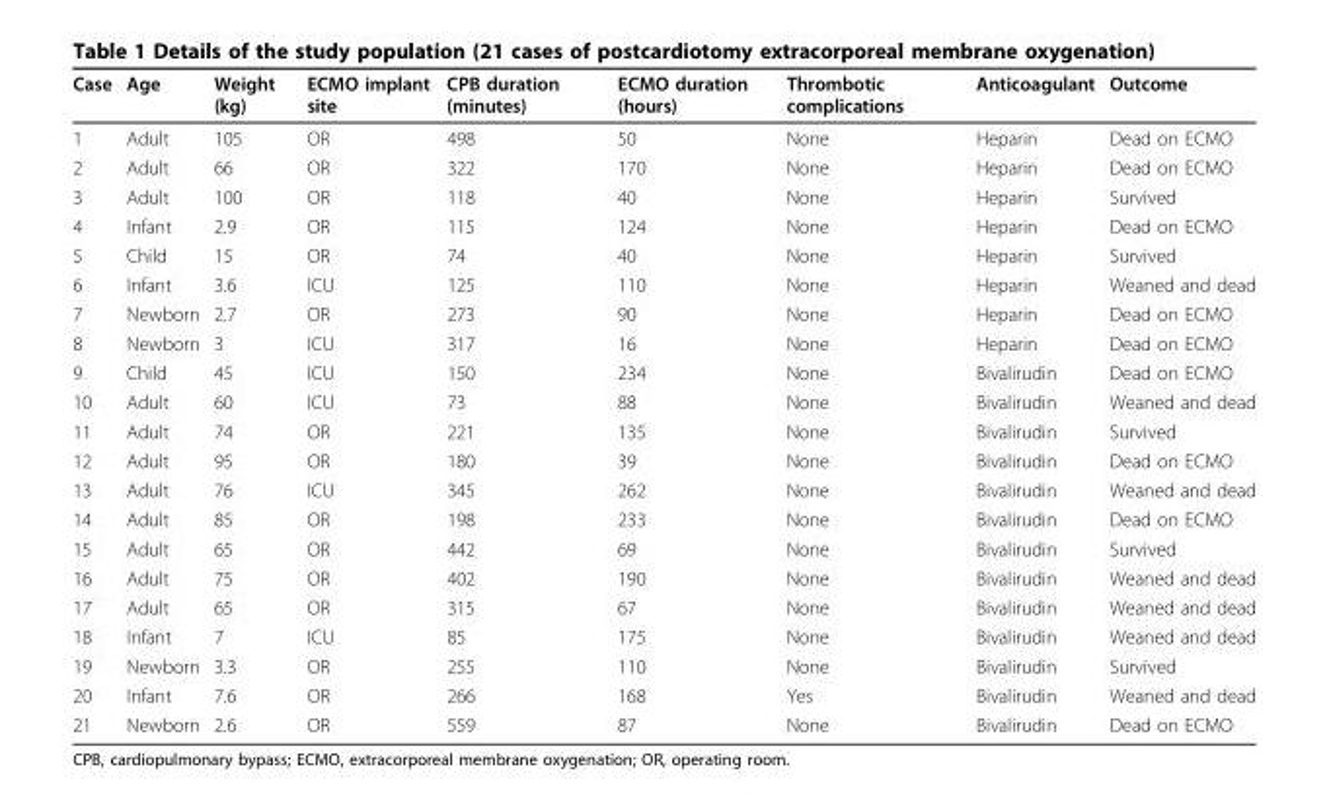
<table><thead><tr><td>Case</td><td>Age</td><td>Weight (kg)</td><td>ECMO implant site</td><td>CPB duration (minutes)</td><td>ECMO duration (hours)</td><td>Thrombotic complications</td><td>Anticoagulant</td><td>Outcome</td></tr></thead><tbody><tr><td>1</td><td>Adult</td><td>105</td><td>OR</td><td>498</td><td>50</td><td>None</td><td>Heparin</td><td>Dead on ECMO</td></tr><tr><td>2</td><td>Adult</td><td>66</td><td>OR</td><td>322</td><td>170</td><td>None</td><td>Heparin</td><td>Dead on ECMO</td></tr><tr><td>3</td><td>Adult</td><td>100</td><td>OR</td><td>118</td><td>40</td><td>None</td><td>Heparin</td><td>Survived</td></tr><tr><td>4</td><td>Infant</td><td>2.9</td><td>OR</td><td>115</td><td>124</td><td>None</td><td>Heparin</td><td>Dead on ECMO</td></tr><tr><td>5</td><td>Child</td><td>15</td><td>OR</td><td>74</td><td>40</td><td>None</td><td>Heparin</td><td>Survived</td></tr><tr><td>6</td><td>Infant</td><td>3.6</td><td>ICU</td><td>125</td><td>110</td><td>None</td><td>Heparin</td><td>Weaned and dead</td></tr><tr><td>7</td><td>Newborn</td><td>2.7</td><td>OR</td><td>273</td><td>90</td><td>None</td><td>Heparin</td><td>Dead on ECMO</td></tr><tr><td>8</td><td>Newborn</td><td>3</td><td>ICU</td><td>317</td><td>16</td><td>None</td><td>Heparin</td><td>Dead on ECMO</td></tr><tr><td>9</td><td>Child</td><td>45</td><td>ICU</td><td>150</td><td>234</td><td>None</td><td>Bivalirudin</td><td>Dead on ECMO</td></tr><tr><td>10</td><td>Adult</td><td>60</td><td>ICU</td><td>73</td><td>88</td><td>None</td><td>Bivalirudin</td><td>Weaned and dead</td></tr><tr><td>11</td><td>Adult</td><td>74</td><td>OR</td><td>221</td><td>135</td><td>None</td><td>Bivalirudin</td><td>Survived</td></tr><tr><td>12</td><td>Adult</td><td>95</td><td>OR</td><td>180</td><td>39</td><td>None</td><td>Bivalirudin</td><td>Dead on ECMO</td></tr><tr><td>13</td><td>Adult</td><td>76</td><td>ICU</td><td>345</td><td>262</td><td>None</td><td>Bivalirudin</td><td>Weaned and dead</td></tr><tr><td>14</td><td>Adult</td><td>85</td><td>OR</td><td>198</td><td>233</td><td>None</td><td>Bivalirudin</td><td>Dead on ECMO</td></tr><tr><td>15</td><td>Adult</td><td>65</td><td>OR</td><td>442</td><td>69</td><td>None</td><td>Bivalirudin</td><td>Survived</td></tr><tr><td>16</td><td>Adult</td><td>75</td><td>OR</td><td>402</td><td>190</td><td>None</td><td>Bivalirudin</td><td>Weaned and dead</td></tr><tr><td>17</td><td>Adult</td><td>65</td><td>OR</td><td>315</td><td>67</td><td>None</td><td>Bivalirudin</td><td>Weaned and dead</td></tr><tr><td>18</td><td>Infant</td><td>7</td><td>ICU</td><td>85</td><td>175</td><td>None</td><td>Bivalirudin</td><td>Weaned and dead</td></tr><tr><td>19</td><td>Newborn</td><td>3.3</td><td>OR</td><td>255</td><td>110</td><td>None</td><td>Bivalirudin</td><td>Survived</td></tr><tr><td>20</td><td>Infant</td><td>7.6</td><td>OR</td><td>266</td><td>168</td><td>Yes</td><td>Bivalirudin</td><td>Weaned and dead</td></tr><tr><td>21</td><td>Newborn</td><td>2.6</td><td>OR</td><td>559</td><td>87</td><td>None</td><td>Bivalirudin</td><td>Dead on ECMO</td></tr></tbody></table>